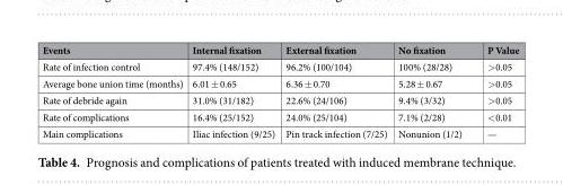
<table><thead><tr><td>Events</td><td>Internal fixation</td><td>External fixation</td><td>No fixation</td><td>P Value</td></tr></thead><tbody><tr><td>Rate of infection control</td><td>97.4% (148/152)</td><td>96.2% (100/104)</td><td>100% (28/28)</td><td>&gt;0.05</td></tr><tr><td>Average bone union time (months)</td><td>6.01 ± 0.65</td><td>6.36 ± 0.70</td><td>5.28 ± 0.67</td><td>&gt;0.05</td></tr><tr><td>Rate of debride again</td><td>31.0% (31/182)</td><td>22.6% (24/106)</td><td>9.4% (3/32)</td><td>&gt;0.05</td></tr><tr><td>Rate of complications</td><td>16.4% (25/152)</td><td>24.0% (25/104)</td><td>7.1% (2/28)</td><td>&lt;0.01</td></tr><tr><td>Main complications</td><td>Iliac infection (9/25)</td><td>Pin track infection (7/25)</td><td>Nonunion (1/2)</td><td>—</td></tr></tbody></table>